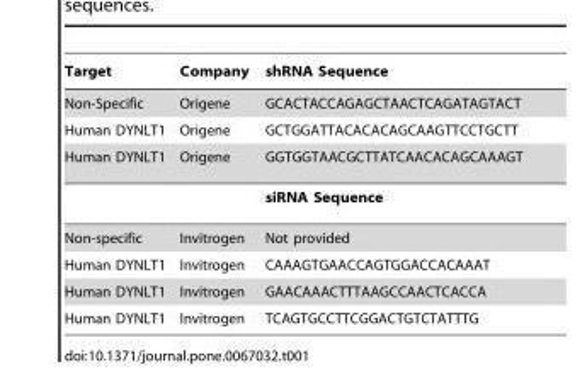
<table><thead><tr><td>Target</td><td>Company</td><td>shRNA Sequence</td></tr></thead><tbody><tr><td>Non-Specific</td><td>Origene</td><td>GCACTACCAGAGCTAACTCAGATAGTACT</td></tr><tr><td>Human DYNLT1</td><td>Origene</td><td>GCTGGATTACACACAGCAAGTTCCTGCTT</td></tr><tr><td rowspan="2">Human DYNLT1</td><td>Origene</td><td>GGTGGTAACGCTTATCAACACAGCAAAGT</td></tr><tr><td></td><td>siRNA Sequence</td></tr><tr><td>Non-specific</td><td>Invitrogen</td><td>Not provided</td></tr><tr><td>Human DYNLT1</td><td>Invitrogen</td><td>CAAAGTGAACCAGTGGACCACAAAT</td></tr><tr><td>Human DYNLT1</td><td>Invitrogen</td><td>GAACAAACTTTAAGCCAACTCACCA</td></tr><tr><td>Human DYNLT1</td><td>Invitrogen</td><td>TCAGTGCCTTCGGACTGTCTATTTG</td></tr></tbody></table>